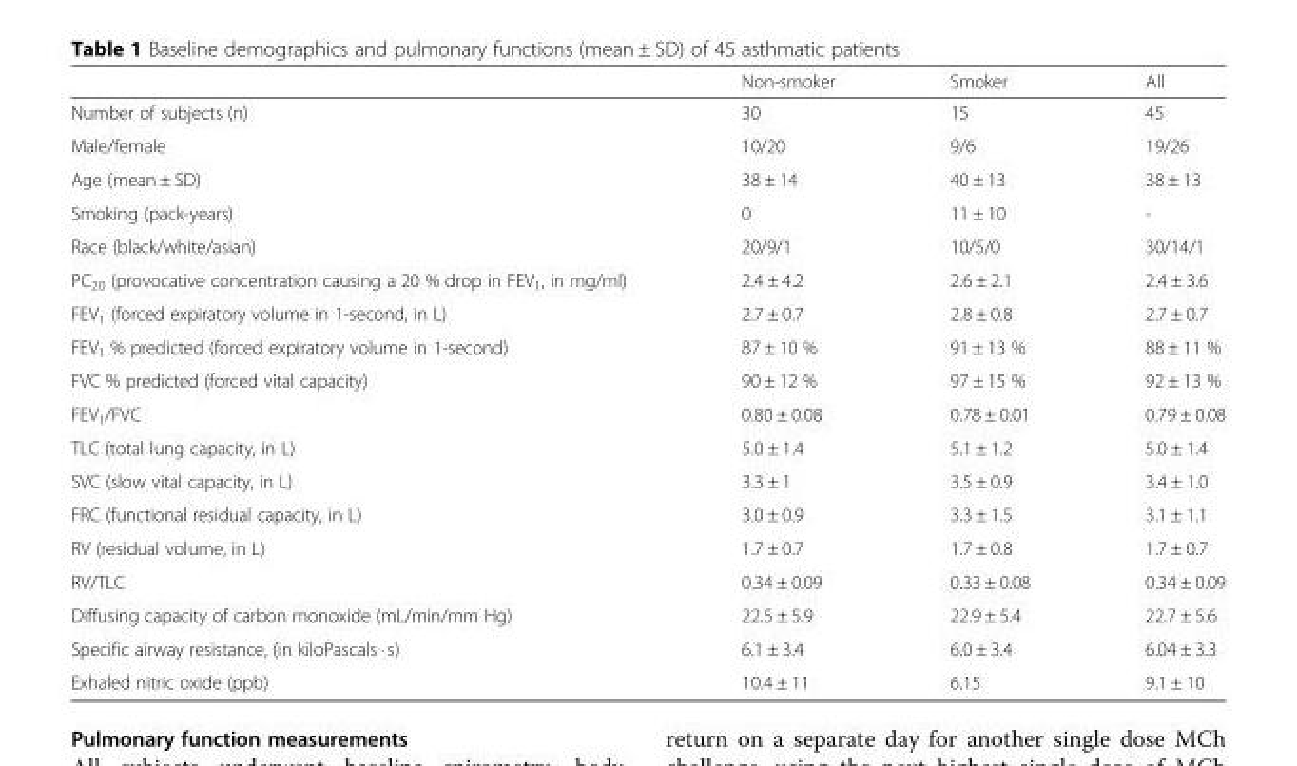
<table><thead><tr><td></td><td>Non-smoker</td><td>Smoker</td><td>All</td></tr></thead><tbody><tr><td>Number of subjects (n)</td><td>30</td><td>15</td><td>45</td></tr><tr><td>Male/female</td><td>10/20</td><td>9/6</td><td>19/26</td></tr><tr><td>Age (mean ± SD)</td><td>38 ± 14</td><td>40 ± 13</td><td>38 ± 13</td></tr><tr><td>Smoking (pack-years)</td><td>0</td><td>11 ± 10</td><td>-</td></tr><tr><td>Race (black/white/asian)</td><td>20/9/1</td><td>10/5/0</td><td>30/14/1</td></tr><tr><td>PC<sub>20</sub> (provocative concentration causing a 20 % drop in FEV<sub>1</sub>, in mg/ml)</td><td>2.4 ± 4.2</td><td>2.6 ± 2.1</td><td>2.4 ± 3.6</td></tr><tr><td>FEV<sub>1</sub> (forced expiratory volume in 1-second, in L)</td><td>2.7 ± 0.7</td><td>2.8 ± 0.8</td><td>2.7 ± 0.7</td></tr><tr><td>FEV<sub>1</sub> % predicted (forced expiratory volume in 1-second)</td><td>87 ± 10 %</td><td>91 ± 13 %</td><td>88 ± 11 %</td></tr><tr><td>FVC % predicted (forced vital capacity)</td><td>90 ± 12 %</td><td>97 ± 15 %</td><td>92 ± 13 %</td></tr><tr><td>FEV<sub>1</sub>/FVC</td><td>0.80 ± 0.08</td><td>0.78 ± 0.01</td><td>0.79 ± 0.08</td></tr><tr><td>TLC (total lung capacity, in L)</td><td>5.0 ± 1.4</td><td>5.1 ± 1.2</td><td>5.0 ± 1.4</td></tr><tr><td>SVC (slow vital capacity, in L)</td><td>3.3 ± 1</td><td>3.5 ± 0.9</td><td>3.4 ± 1.0</td></tr><tr><td>FRC (functional residual capacity, in L)</td><td>3.0 ± 0.9</td><td>3.3 ± 1.5</td><td>3.1 ± 1.1</td></tr><tr><td>RV (residual volume, in L)</td><td>1.7 ± 0.7</td><td>1.7 ± 0.8</td><td>1.7 ± 0.7</td></tr><tr><td>RV/TLC</td><td>0.34 ± 0.09</td><td>0.33 ± 0.08</td><td>0.34 ± 0.09</td></tr><tr><td>Diffusing capacity of carbon monoxide (mL/min/mm Hg)</td><td>22.5 ± 5.9</td><td>22.9 ± 5.4</td><td>22.7 ± 5.6</td></tr><tr><td>Specific airway resistance, (in kiloPascals · s)</td><td>6.1 ± 3.4</td><td>6.0 ± 3.4</td><td>6.04 ± 3.3</td></tr><tr><td>Exhaled nitric oxide (ppb)</td><td>10.4 ± 11</td><td>6.15</td><td>9.1 ± 10</td></tr></tbody></table>